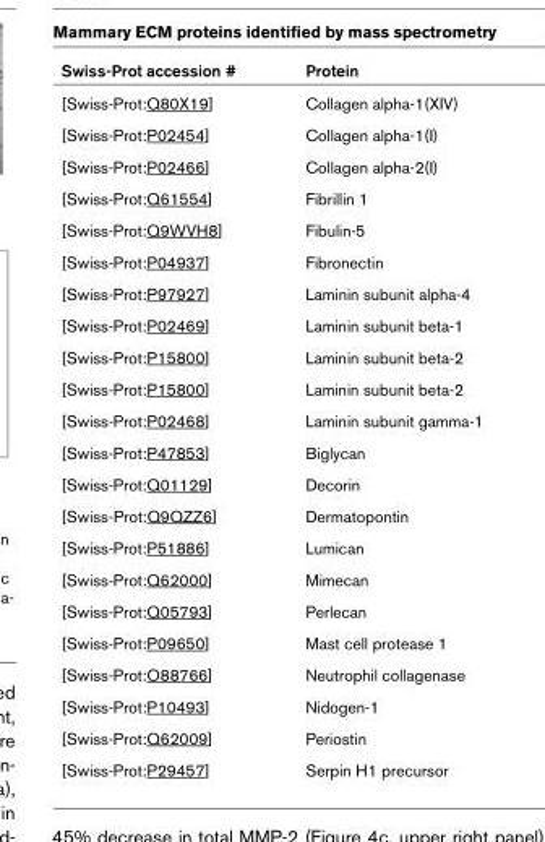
<table><thead><tr><td>Swiss-Prot accession #</td><td>Protein</td></tr></thead><tbody><tr><td>[Swiss-Prot:Q80X19]</td><td>Collagen alpha-1(XIV)</td></tr><tr><td>[Swiss-Prot:P02454]</td><td>Collagen alpha-1(I)</td></tr><tr><td>[Swiss-Prot:P02466]</td><td>Collagen alpha-2(I)</td></tr><tr><td>[Swiss-Prot:Q61554]</td><td>Fibrillin 1</td></tr><tr><td>[Swiss-Prot:Q9WVH8]</td><td>Fibulin-5</td></tr><tr><td>[Swiss-Prot:P04937]</td><td>Fibronectin</td></tr><tr><td>[Swiss-Prot:P97927]</td><td>Laminin subunit alpha-4</td></tr><tr><td>[Swiss-Prot:P02469]</td><td>Laminin subunit beta-1</td></tr><tr><td>[Swiss-Prot:P15800]</td><td>Laminin subunit beta-2</td></tr><tr><td>[Swiss-Prot:P15800]</td><td>Laminin subunit beta-2</td></tr><tr><td>[Swiss-Prot:P02468]</td><td>Laminin subunit gamma-1</td></tr><tr><td>[Swiss-Prot:P47853]</td><td>Biglycan</td></tr><tr><td>[Swiss-Prot:Q01129]</td><td>Decorin</td></tr><tr><td>[Swiss-Prot:Q9QZZ6]</td><td>Dermatopontin</td></tr><tr><td>[Swiss-Prot:P51886]</td><td>Lumican</td></tr><tr><td>[Swiss-Prot:Q62000]</td><td>Mimecan</td></tr><tr><td>[Swiss-Prot:Q05793]</td><td>Perlecan</td></tr><tr><td>[Swiss-Prot:P09650]</td><td>Mast cell protease 1</td></tr><tr><td>[Swiss-Prot:O88766]</td><td>Neutrophil collagenase</td></tr><tr><td>[Swiss-Prot:P10493]</td><td>Nidogen-1</td></tr><tr><td>[Swiss-Prot:Q62009]</td><td>Periostin</td></tr><tr><td>[Swiss-Prot:P29457]</td><td>Serpin H1 precursor</td></tr></tbody></table>